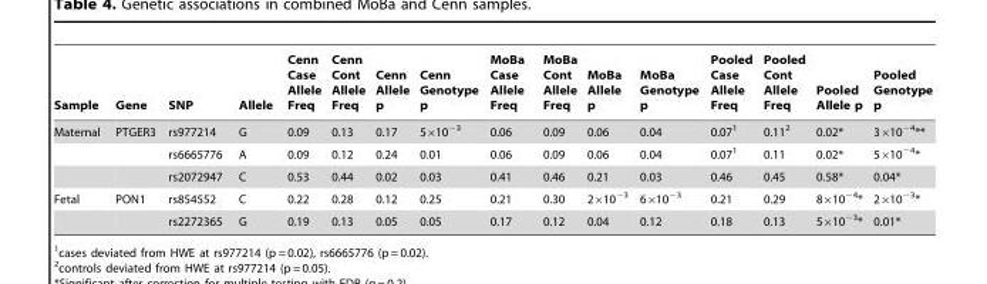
<table><thead><tr><td>Sample</td><td>Gene</td><td>SNP</td><td>Allele</td><td>Cenn Case Allele Freq</td><td>Cenn Cont Allele Freq</td><td>Cenn Allele p</td><td>Cenn Genotype p</td><td>MoBa Case Allele Freq</td><td>MoBa Cont Allele Freq</td><td>MoBa Allele p</td><td>MoBa Genotype p</td><td>Pooled Case Allele Freq</td><td>Pooled Cont Allele Freq</td><td>Pooled Allele p</td><td>Pooled Genotype p</td></tr></thead><tbody><tr><td rowspan="3">Maternal</td><td>PTGER3</td><td>rs977214</td><td>G</td><td>0.09</td><td>0.13</td><td>0.17</td><td>5×10<sup>−3</sup></td><td>0.06</td><td>0.09</td><td>0.06</td><td>0.04</td><td>0.07<sup>1</sup></td><td>0.11<sup>2</sup></td><td>0.02*</td><td>3×10<sup>−4</sup>**</td></tr><tr><td></td><td>rs6665776</td><td>A</td><td>0.09</td><td>0.12</td><td>0.24</td><td>0.01</td><td>0.06</td><td>0.09</td><td>0.06</td><td>0.04</td><td>0.07<sup>1</sup></td><td>0.11</td><td>0.02*</td><td>5×10<sup>−4</sup>*</td></tr><tr><td></td><td>rs2072947</td><td>C</td><td>0.53</td><td>0.44</td><td>0.02</td><td>0.03</td><td>0.41</td><td>0.46</td><td>0.21</td><td>0.03</td><td>0.46</td><td>0.45</td><td>0.58*</td><td>0.04*</td></tr><tr><td rowspan="2">Fetal</td><td>PON1</td><td>rs854552</td><td>C</td><td>0.22</td><td>0.28</td><td>0.12</td><td>0.25</td><td>0.21</td><td>0.30</td><td>2×10<sup>−3</sup></td><td>6×10<sup>−3</sup></td><td>0.21</td><td>0.29</td><td>8×10<sup>−4</sup>*</td><td>2×10<sup>−3</sup>*</td></tr><tr><td></td><td>rs2272365</td><td>G</td><td>0.19</td><td>0.13</td><td>0.05</td><td>0.05</td><td>0.17</td><td>0.12</td><td>0.04</td><td>0.12</td><td>0.18</td><td>0.13</td><td>5×10<sup>−3</sup>*</td><td>0.01*</td></tr></tbody></table>